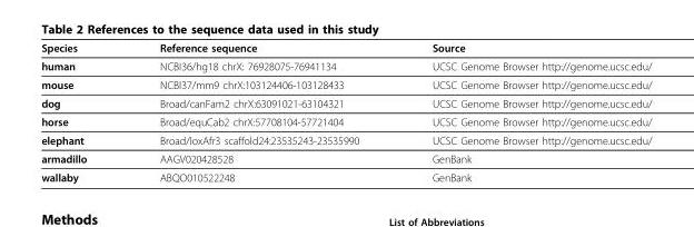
<table><thead><tr><td>Species</td><td>Reference sequence</td><td>Source</td></tr></thead><tbody><tr><td>human</td><td>NCBI36/hg18 chrX: 76928075-76941134</td><td>UCSC Genome Browser http://genome.ucsc.edu/</td></tr><tr><td>mouse</td><td>NCBI37/mm9 chrX:103124406-103128433</td><td>UCSC Genome Browser http://genome.ucsc.edu/</td></tr><tr><td>dog</td><td>Broad/canFam2 chrX:63091021-63104321</td><td>UCSC Genome Browser http://genome.ucsc.edu/</td></tr><tr><td>horse</td><td>Broad/equCab2 chrX:57708104-57721404</td><td>UCSC Genome Browser http://genome.ucsc.edu/</td></tr><tr><td>elephant</td><td>Broad/loxAfr3 scaffold24:23535243-23535990</td><td>UCSC Genome Browser http://genome.ucsc.edu/</td></tr><tr><td>armadillo</td><td>AAGV020428528</td><td>GenBank</td></tr><tr><td>wallaby</td><td>ABQO010522248</td><td>GenBank</td></tr></tbody></table>